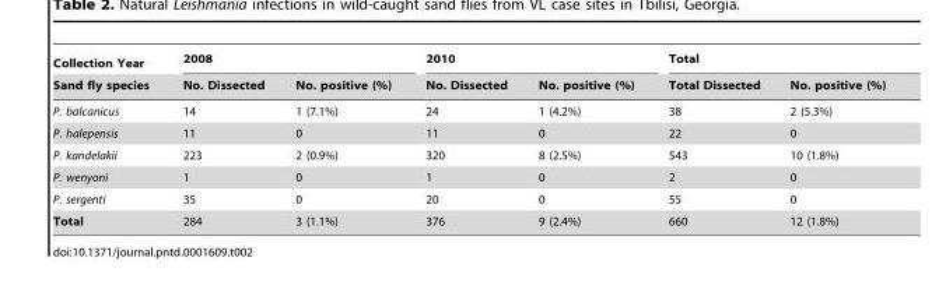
<table><thead><tr><td rowspan="2">Collection Year Sand fly species</td><td colspan="2">2008</td><td colspan="2">2010</td><td colspan="2">Total</td></tr><tr><td>No. Dissected</td><td>No. positive (%)</td><td>No. Dissected</td><td>No. positive (%)</td><td>Total Dissected</td><td>No. positive (%)</td></tr></thead><tbody><tr><td>P. balcanicus</td><td>14</td><td>1 (7.1%)</td><td>24</td><td>1 (4.2%)</td><td>38</td><td>2 (5.3%)</td></tr><tr><td>P. halepensis</td><td>11</td><td>0</td><td>11</td><td>0</td><td>22</td><td>0</td></tr><tr><td>P. kandelakii</td><td>223</td><td>2 (0.9%)</td><td>320</td><td>8 (2.5%)</td><td>543</td><td>10 (1.8%)</td></tr><tr><td>P. wenyoni</td><td>1</td><td>0</td><td>1</td><td>0</td><td>2</td><td>0</td></tr><tr><td>P. sergenti</td><td>35</td><td>0</td><td>20</td><td>0</td><td>55</td><td>0</td></tr><tr><td>Total</td><td>284</td><td>3 (1.1%)</td><td>376</td><td>9 (2.4%)</td><td>660</td><td>12 (1.8%)</td></tr></tbody></table>